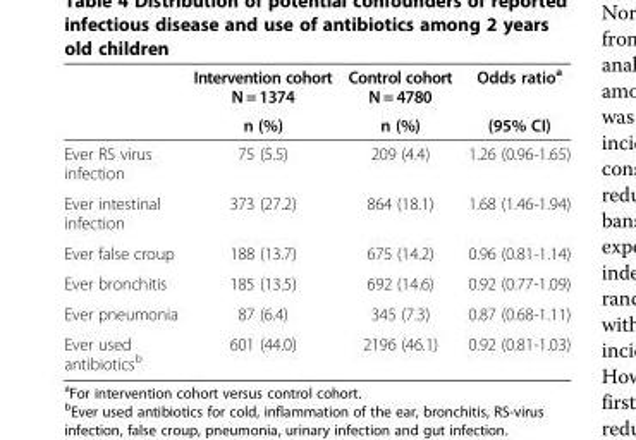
<table><thead><tr><td rowspan="2"></td><td rowspan="2">Intervention cohort N = 1374 n (%)</td><td rowspan="2">Control cohort N = 4780 n (%)</td><td rowspan="2">Odds ratio<sup>a</sup> (95% CI)</td></tr><tr></tr></thead><tbody><tr><td>Ever RS virus infection</td><td>75 (5.5)</td><td>209 (4.4)</td><td>1.26 (0.96-1.65)</td></tr><tr><td>Ever intestinal infection</td><td>373 (27.2)</td><td>864 (18.1)</td><td>1.68 (1.46-1.94)</td></tr><tr><td>Ever false croup</td><td>188 (13.7)</td><td>675 (14.2)</td><td>0.96 (0.81-1.14)</td></tr><tr><td>Ever bronchitis</td><td>185 (13.5)</td><td>692 (14.6)</td><td>0.92 (0.77-1.09)</td></tr><tr><td>Ever pneumonia</td><td>87 (6.4)</td><td>345 (7.3)</td><td>0.87 (0.68-1.11)</td></tr><tr><td>Ever used antibiotics<sup>b</sup></td><td>601 (44.0)</td><td>2196 (46.1)</td><td>0.92 (0.81-1.03)</td></tr></tbody></table>